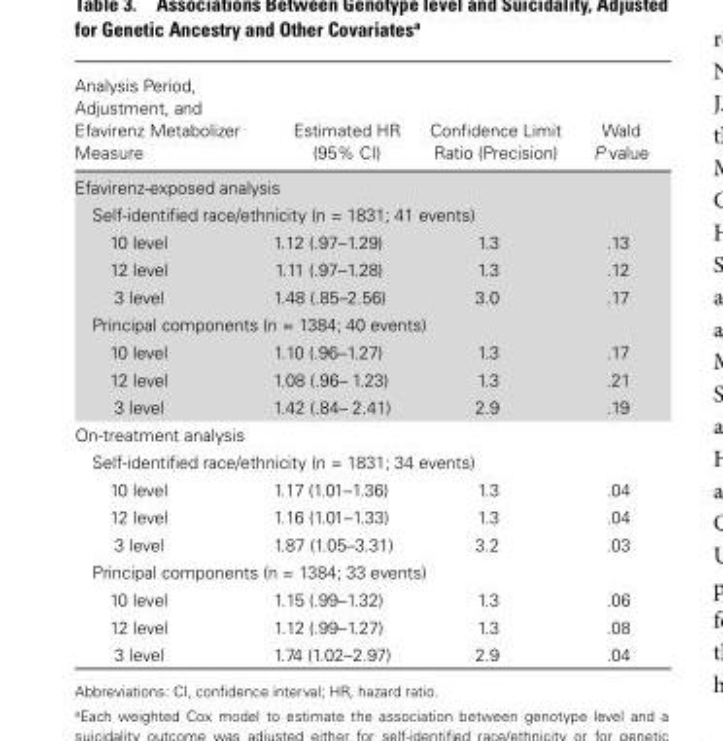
<table><tbody><tr><td>Analysis Period, Adjustment, and Efavirenz Metabolizer Measure</td><td>Estimated HR (95% CI)</td><td>Confidence Limit Ratio (Precision)</td><td>Wald P value</td></tr><tr><td colspan="4">Efavirenz-exposed analysis</td></tr><tr><td colspan="4">Self-identified race/ethnicity (n = 1831; 41 events)</td></tr><tr><td>10 level</td><td>1.12 (.97–1.29)</td><td>1.3</td><td>.13</td></tr><tr><td>12 level</td><td>1.11 (.97–1.28)</td><td>1.3</td><td>.12</td></tr><tr><td>3 level</td><td>1.48 (.85–2.56)</td><td>3.0</td><td>.17</td></tr><tr><td colspan="4">Principal components (n = 1384; 40 events)</td></tr><tr><td>10 level</td><td>1.10 (.96–1.27)</td><td>1.3</td><td>.17</td></tr><tr><td>12 level</td><td>1.08 (.96– 1.23)</td><td>1.3</td><td>.21</td></tr><tr><td>3 level</td><td>1.42 (.84– 2.41)</td><td>2.9</td><td>.19</td></tr><tr><td colspan="4">On-treatment analysis</td></tr><tr><td colspan="4">Self-identified race/ethnicity (n = 1831; 34 events)</td></tr><tr><td>10 level</td><td>1.17 (1.01–1.36)</td><td>1.3</td><td>.04</td></tr><tr><td>12 level</td><td>1.16 (1.01–1.33)</td><td>1.3</td><td>.04</td></tr><tr><td>3 level</td><td>1.87 (1.05–3.31)</td><td>3.2</td><td>.03</td></tr><tr><td colspan="4">Principal components (n = 1384; 33 events)</td></tr><tr><td>10 level</td><td>1.15 (.99–1.32)</td><td>1.3</td><td>.06</td></tr><tr><td>12 level</td><td>1.12 (.99–1.27)</td><td>1.3</td><td>.08</td></tr><tr><td>3 level</td><td>1.74 (1.02–2.97)</td><td>2.9</td><td>.04</td></tr></tbody></table>